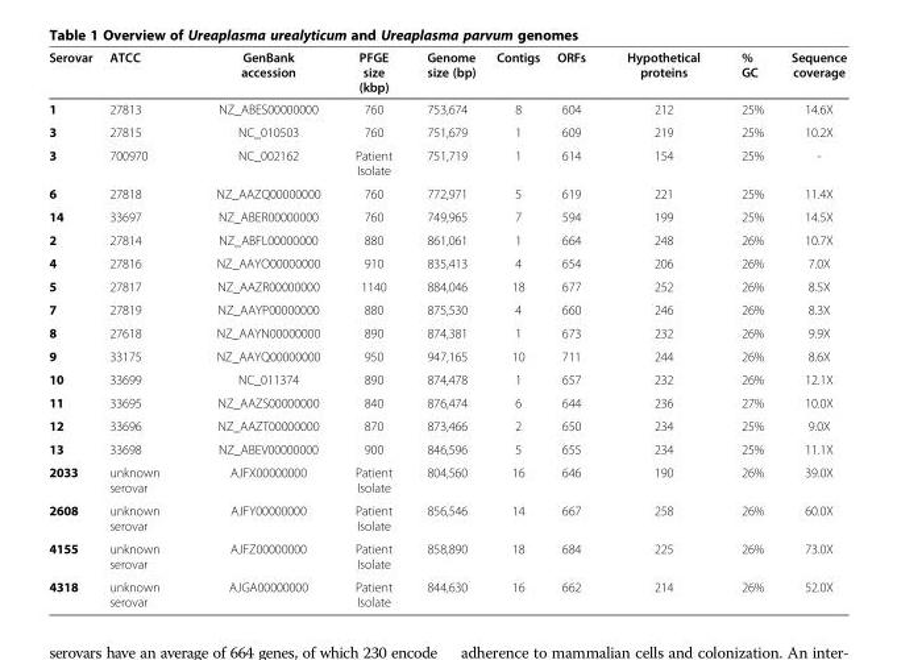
<table><thead><tr><td>Serovar</td><td>ATCC</td><td>GenBank accession</td><td>PFGE size (kbp)</td><td>Genome size (bp)</td><td>Contigs</td><td>ORFs</td><td>Hypothetical proteins</td><td>% GC</td><td>Sequence coverage</td></tr></thead><tbody><tr><td>1</td><td>27813</td><td>NZ_ABES00000000</td><td>760</td><td>753,674</td><td>8</td><td>604</td><td>212</td><td>25%</td><td>14.6X</td></tr><tr><td>3</td><td>27815</td><td>NC_010503</td><td>760</td><td>751,679</td><td>1</td><td>609</td><td>219</td><td>25%</td><td>10.2X</td></tr><tr><td>3</td><td>700970</td><td>NC_002162</td><td>Patient Isolate</td><td>751,719</td><td>1</td><td>614</td><td>154</td><td>25%</td><td>-</td></tr><tr><td>6</td><td>27818</td><td>NZ_AAZQ00000000</td><td>760</td><td>772,971</td><td>5</td><td>619</td><td>221</td><td>25%</td><td>11.4X</td></tr><tr><td>14</td><td>33697</td><td>NZ_ABER00000000</td><td>760</td><td>749,965</td><td>7</td><td>594</td><td>199</td><td>25%</td><td>14.5X</td></tr><tr><td>2</td><td>27814</td><td>NZ_ABFL00000000</td><td>880</td><td>861,061</td><td>1</td><td>664</td><td>248</td><td>26%</td><td>10.7X</td></tr><tr><td>4</td><td>27816</td><td>NZ_AAYO00000000</td><td>910</td><td>835,413</td><td>4</td><td>654</td><td>206</td><td>26%</td><td>7.0X</td></tr><tr><td>5</td><td>27817</td><td>NZ_AAZR00000000</td><td>1140</td><td>884,046</td><td>18</td><td>677</td><td>252</td><td>26%</td><td>8.5X</td></tr><tr><td>7</td><td>27819</td><td>NZ_AAYP00000000</td><td>880</td><td>875,530</td><td>4</td><td>660</td><td>246</td><td>26%</td><td>8.3X</td></tr><tr><td>8</td><td>27618</td><td>NZ_AAYN00000000</td><td>890</td><td>874,381</td><td>1</td><td>673</td><td>232</td><td>26%</td><td>9.9X</td></tr><tr><td>9</td><td>33175</td><td>NZ_AAYQ00000000</td><td>950</td><td>947,165</td><td>10</td><td>711</td><td>244</td><td>26%</td><td>8.6X</td></tr><tr><td>10</td><td>33699</td><td>NC_011374</td><td>890</td><td>874,478</td><td>1</td><td>657</td><td>232</td><td>26%</td><td>12.1X</td></tr><tr><td>11</td><td>33695</td><td>NZ_AAZS00000000</td><td>840</td><td>876,474</td><td>6</td><td>644</td><td>236</td><td>27%</td><td>10.0X</td></tr><tr><td>12</td><td>33696</td><td>NZ_AAZT00000000</td><td>870</td><td>873,466</td><td>2</td><td>650</td><td>234</td><td>25%</td><td>9.0X</td></tr><tr><td>13</td><td>33698</td><td>NZ_ABEV00000000</td><td>900</td><td>846,596</td><td>5</td><td>655</td><td>234</td><td>25%</td><td>11.1X</td></tr><tr><td>2033</td><td>unknown serovar</td><td>AJFX00000000</td><td>Patient Isolate</td><td>804,560</td><td>16</td><td>646</td><td>190</td><td>26%</td><td>39.0X</td></tr><tr><td>2608</td><td>unknown serovar</td><td>AJFY00000000</td><td>Patient Isolate</td><td>856,546</td><td>14</td><td>667</td><td>258</td><td>26%</td><td>60.0X</td></tr><tr><td>4155</td><td>unknown serovar</td><td>AJFZ00000000</td><td>Patient Isolate</td><td>858,890</td><td>18</td><td>684</td><td>225</td><td>26%</td><td>73.0X</td></tr><tr><td>4318</td><td>unknown serovar</td><td>AJGA00000000</td><td>Patient Isolate</td><td>844,630</td><td>16</td><td>662</td><td>214</td><td>26%</td><td>52.0X</td></tr></tbody></table>